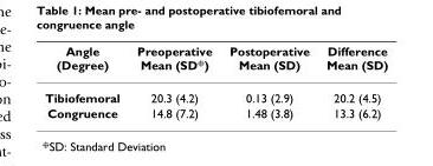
<table><thead><tr><td>Angle (Degree)</td><td>Preoperative Mean (SD<sup>❈</sup>)</td><td>Postoperative Mean (SD)</td><td>Difference Mean (SD)</td></tr></thead><tbody><tr><td>Tibiofemoral</td><td>20.3 (4.2)</td><td>0.13 (2.9)</td><td>20.2 (4.5)</td></tr><tr><td>Congruence</td><td>14.8 (7.2)</td><td>1.48 (3.8)</td><td>13.3 (6.2)</td></tr></tbody></table>